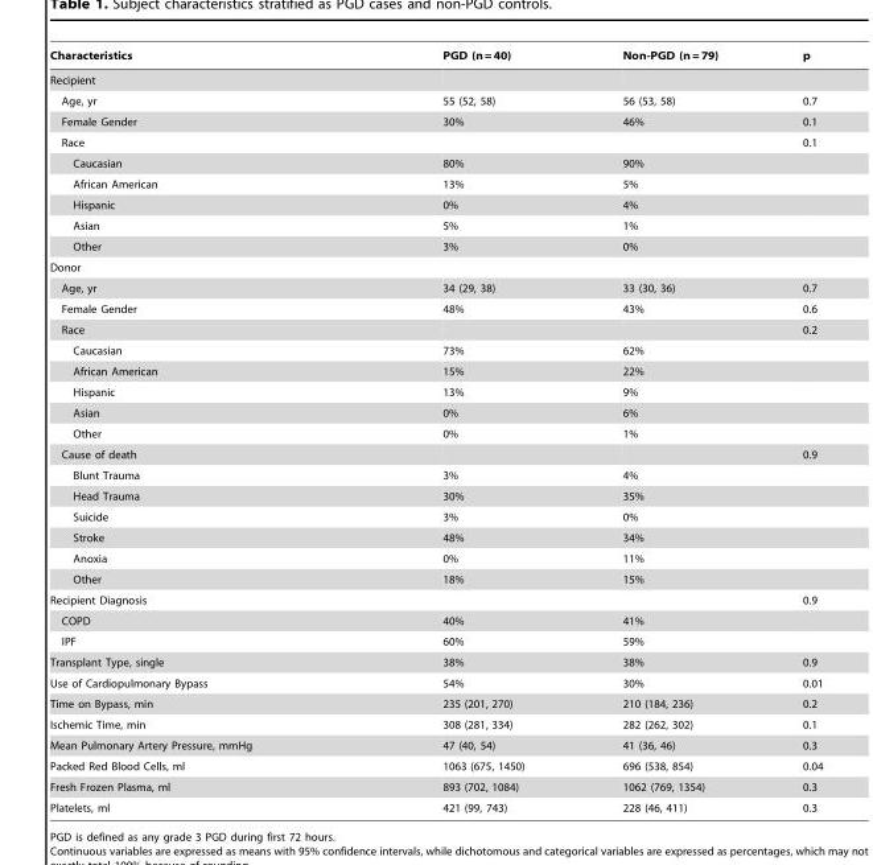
<table><thead><tr><td>Characteristics</td><td>PGD (n = 40)</td><td>Non-PGD (n = 79)</td><td>p</td></tr></thead><tbody><tr><td colspan="4">Recipient</td></tr><tr><td>Age, yr</td><td>55 (52, 58)</td><td>56 (53, 58)</td><td>0.7</td></tr><tr><td>Female Gender</td><td>30%</td><td>46%</td><td>0.1</td></tr><tr><td>Race</td><td></td><td></td><td>0.1</td></tr><tr><td>Caucasian</td><td>80%</td><td>90%</td><td></td></tr><tr><td>African American</td><td>13%</td><td>5%</td><td></td></tr><tr><td>Hispanic</td><td>0%</td><td>4%</td><td></td></tr><tr><td>Asian</td><td>5%</td><td>1%</td><td></td></tr><tr><td>Other</td><td>3%</td><td>0%</td><td></td></tr><tr><td colspan="4">Donor</td></tr><tr><td>Age, yr</td><td>34 (29, 38)</td><td>33 (30, 36)</td><td>0.7</td></tr><tr><td>Female Gender</td><td>48%</td><td>43%</td><td>0.6</td></tr><tr><td>Race</td><td></td><td></td><td>0.2</td></tr><tr><td>Caucasian</td><td>73%</td><td>62%</td><td></td></tr><tr><td>African American</td><td>15%</td><td>22%</td><td></td></tr><tr><td>Hispanic</td><td>13%</td><td>9%</td><td></td></tr><tr><td>Asian</td><td>0%</td><td>6%</td><td></td></tr><tr><td>Other</td><td>0%</td><td>1%</td><td></td></tr><tr><td>Cause of death</td><td></td><td></td><td>0.9</td></tr><tr><td>Blunt Trauma</td><td>3%</td><td>4%</td><td></td></tr><tr><td>Head Trauma</td><td>30%</td><td>35%</td><td></td></tr><tr><td>Suicide</td><td>3%</td><td>0%</td><td></td></tr><tr><td>Stroke</td><td>48%</td><td>34%</td><td></td></tr><tr><td>Anoxia</td><td>0%</td><td>11%</td><td></td></tr><tr><td>Other</td><td>18%</td><td>15%</td><td></td></tr><tr><td>Recipient Diagnosis</td><td></td><td></td><td>0.9</td></tr><tr><td>COPD</td><td>40%</td><td>41%</td><td></td></tr><tr><td>IPF</td><td>60%</td><td>59%</td><td></td></tr><tr><td>Transplant Type, single</td><td>38%</td><td>38%</td><td>0.9</td></tr><tr><td>Use of Cardiopulmonary Bypass</td><td>54%</td><td>30%</td><td>0.01</td></tr><tr><td>Time on Bypass, min</td><td>235 (201, 270)</td><td>210 (184, 236)</td><td>0.2</td></tr><tr><td>Ischemic Time, min</td><td>308 (281, 334)</td><td>282 (262, 302)</td><td>0.1</td></tr><tr><td>Mean Pulmonary Artery Pressure, mmHg</td><td>47 (40, 54)</td><td>41 (36, 46)</td><td>0.3</td></tr><tr><td>Packed Red Blood Cells, ml</td><td>1063 (675, 1450)</td><td>696 (538, 854)</td><td>0.04</td></tr><tr><td>Fresh Frozen Plasma, ml</td><td>893 (702, 1084)</td><td>1062 (769, 1354)</td><td>0.3</td></tr><tr><td>Platelets, ml</td><td>421 (99, 743)</td><td>228 (46, 411)</td><td>0.3</td></tr></tbody></table>